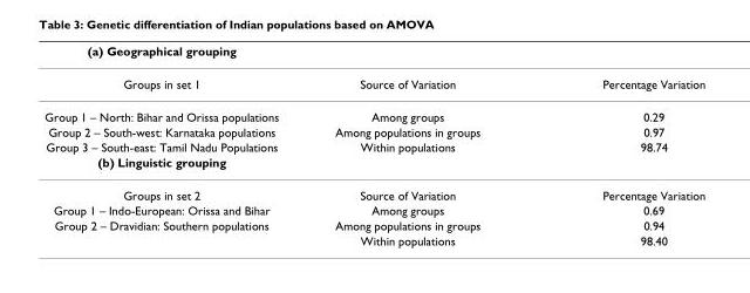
<table><thead><tr><td>(a) Geographical grouping</td><td></td><td></td></tr></thead><tbody><tr><td>Groups in set 1</td><td>Source of Variation</td><td>Percentage Variation</td></tr><tr><td>Group 1 – North: Bihar and Orissa populations</td><td>Among groups</td><td>0.29</td></tr><tr><td>Group 2 – South-west: Karnataka populations</td><td>Among populations in groups</td><td>0.97</td></tr><tr><td>Group 3 – South-east: Tamil Nadu Populations</td><td>Within populations</td><td>98.74</td></tr><tr><td colspan="3">(b) Linguistic grouping</td></tr><tr><td>Groups in set 2</td><td>Source of Variation</td><td>Percentage Variation</td></tr><tr><td>Group 1 – Indo-European: Orissa and Bihar</td><td>Among groups</td><td>0.69</td></tr><tr><td rowspan="2">Group 2 – Dravidian: Southern populations</td><td>Among populations in groups</td><td>0.94</td></tr><tr><td>Within populations</td><td>98.40</td></tr></tbody></table>